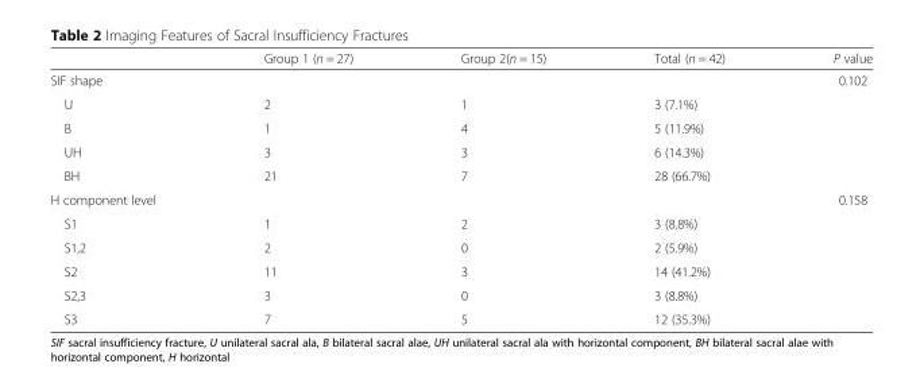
<table><thead><tr><td></td><td>Group 1 (n = 27)</td><td>Group 2(n = 15)</td><td>Total (n = 42)</td><td>P value</td></tr></thead><tbody><tr><td>SIF shape</td><td></td><td></td><td></td><td>0.102</td></tr><tr><td>U</td><td>2</td><td>1</td><td>3 (7.1%)</td><td></td></tr><tr><td>B</td><td>1</td><td>4</td><td>5 (11.9%)</td><td></td></tr><tr><td>UH</td><td>3</td><td>3</td><td>6 (14.3%)</td><td></td></tr><tr><td>BH</td><td>21</td><td>7</td><td>28 (66.7%)</td><td></td></tr><tr><td>H component level</td><td></td><td></td><td></td><td>0.158</td></tr><tr><td>S1</td><td>1</td><td>2</td><td>3 (8.8%)</td><td></td></tr><tr><td>S1,2</td><td>2</td><td>0</td><td>2 (5.9%)</td><td></td></tr><tr><td>S2</td><td>11</td><td>3</td><td>14 (41.2%)</td><td></td></tr><tr><td>S2,3</td><td>3</td><td>0</td><td>3 (8.8%)</td><td></td></tr><tr><td>S3</td><td>7</td><td>5</td><td>12 (35.3%)</td><td></td></tr></tbody></table>